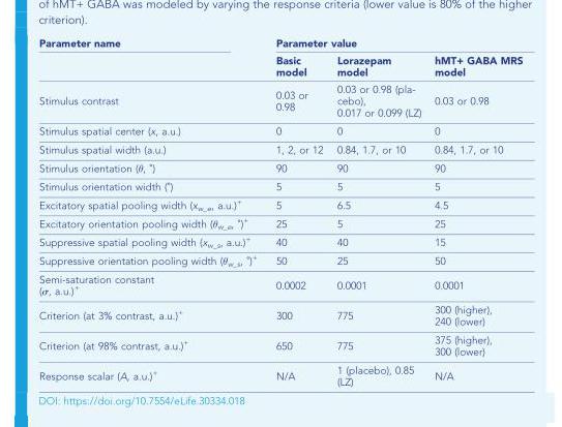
<table><thead><tr><td rowspan="2">Parameter name</td><td colspan="3">Parameter value</td></tr><tr><td>Basic model</td><td>Lorazepam model</td><td>hMT+ GABA MRS model</td></tr></thead><tbody><tr><td>Stimulus contrast</td><td>0.03 or 0.98</td><td>0.03 or 0.98 (pla- cebo), 0.017 or 0.099 (LZ)</td><td>0.03 or 0.98</td></tr><tr><td>Stimulus spatial center (x, a.u.)</td><td>0</td><td>0</td><td>0</td></tr><tr><td>Stimulus spatial width (a.u.)</td><td>1, 2, or 12</td><td>0.84, 1.7, or 10</td><td>0.84, 1.7, or 10</td></tr><tr><td>Stimulus orientation (θ, ˚)</td><td>90</td><td>90</td><td>90</td></tr><tr><td>Stimulus orientation width (˚)</td><td>5</td><td>5</td><td>5</td></tr><tr><td>Excitatory spatial pooling width (x<sub>w_e</sub>, a.u.)<sup>+</sup></td><td>5</td><td>6.5</td><td>4.5</td></tr><tr><td>Excitatory orientation pooling width (θw_e, ˚)+</td><td>25</td><td>5</td><td>25</td></tr><tr><td>Suppressive spatial pooling width (x<sub>w_s</sub>, a.u.)<sup>+</sup></td><td>40</td><td>40</td><td>15</td></tr><tr><td>Suppressive orientation pooling width (θw_s, ˚)+</td><td>50</td><td>25</td><td>50</td></tr><tr><td>Semi-saturation constant (σ, a.u.)<sup>+</sup></td><td>0.0002</td><td>0.0001</td><td>0.0001</td></tr><tr><td>Criterion (at 3% contrast, a.u.)<sup>+</sup></td><td>300</td><td>775</td><td>300 (higher), 240 (lower)</td></tr><tr><td>Criterion (at 98% contrast, a.u.)<sup>+</sup></td><td>650</td><td>775</td><td>375 (higher), 300 (lower)</td></tr><tr><td>Response scalar (A, a.u.)<sup>+</sup></td><td>N/A</td><td>1 (placebo), 0.85 (LZ)</td><td>N/A</td></tr></tbody></table>